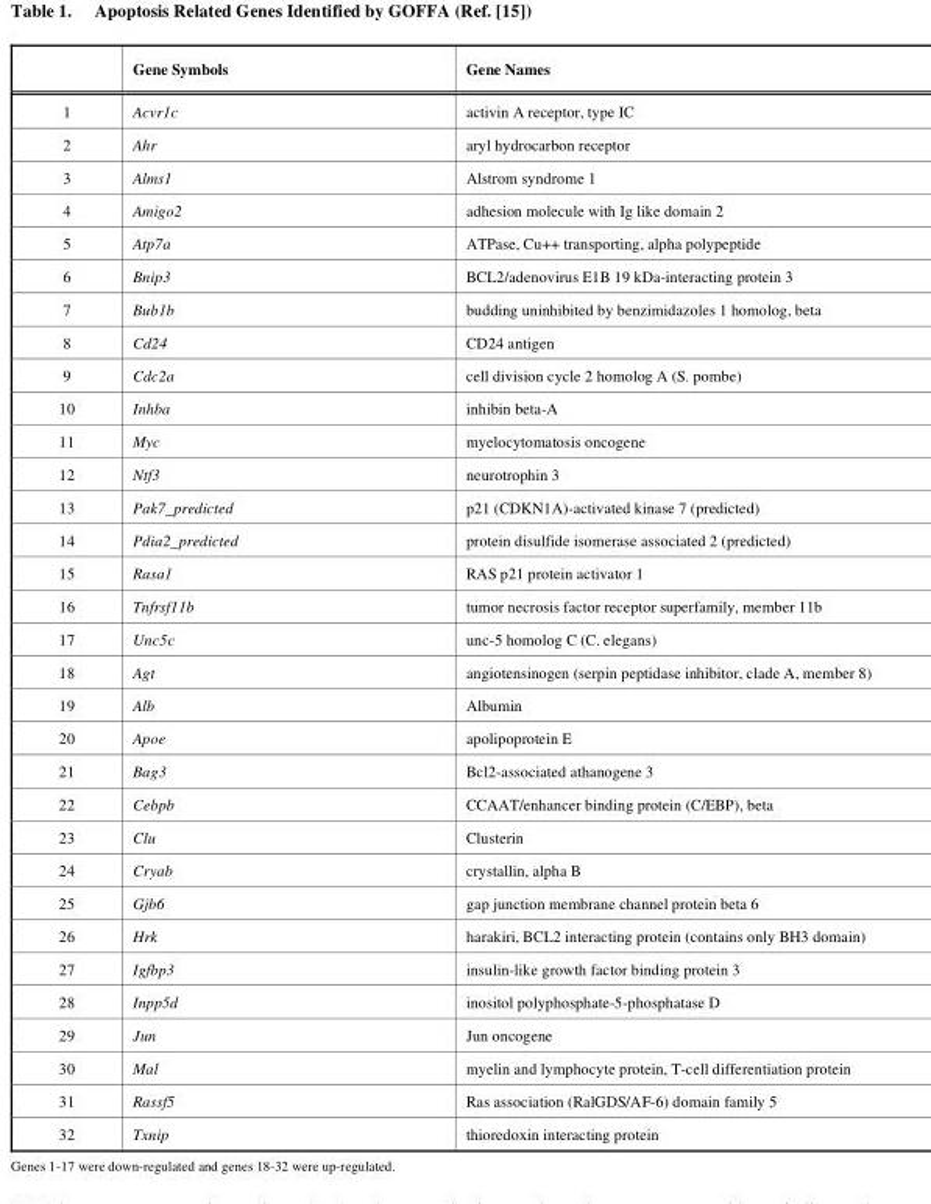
<table><thead><tr><td></td><td>Gene Symbols</td><td>Gene Names</td></tr></thead><tbody><tr><td>1</td><td>Acvr1c</td><td>activin A receptor, type IC</td></tr><tr><td>2</td><td>Ahr</td><td>aryl hydrocarbon receptor</td></tr><tr><td>3</td><td>Alms1</td><td>Alstrom syndrome 1</td></tr><tr><td>4</td><td>Amigo2</td><td>adhesion molecule with Ig like domain 2</td></tr><tr><td>5</td><td>Atp7a</td><td>ATPase, Cu++ transporting, alpha polypeptide</td></tr><tr><td>6</td><td>Bnip3</td><td>BCL2/adenovirus E1B 19 kDa-interacting protein 3</td></tr><tr><td>7</td><td>Bub1b</td><td>budding uninhibited by benzimidazoles 1 homolog, beta</td></tr><tr><td>8</td><td>Cd24</td><td>CD24 antigen</td></tr><tr><td>9</td><td>Cdc2a</td><td>cell division cycle 2 homolog A (S. pombe)</td></tr><tr><td>10</td><td>Inhba</td><td>inhibin beta-A</td></tr><tr><td>11</td><td>Myc</td><td>myelocytomatosis oncogene</td></tr><tr><td>12</td><td>Ntf3</td><td>neurotrophin 3</td></tr><tr><td>13</td><td>Pak7_predicted</td><td>p21 (CDKN1A)-activated kinase 7 (predicted)</td></tr><tr><td>14</td><td>Pdia2_predicted</td><td>protein disulfide isomerase associated 2 (predicted)</td></tr><tr><td>15</td><td>Rasa1</td><td>RAS p21 protein activator 1</td></tr><tr><td>16</td><td>Tnfrsf11b</td><td>tumor necrosis factor receptor superfamily, member 11b</td></tr><tr><td>17</td><td>Unc5c</td><td>unc-5 homolog C (C. elegans)</td></tr><tr><td>18</td><td>Agt</td><td>angiotensinogen (serpin peptidase inhibitor, clade A, member 8)</td></tr><tr><td>19</td><td>Alb</td><td>Albumin</td></tr><tr><td>20</td><td>Apoe</td><td>apolipoprotein E</td></tr><tr><td>21</td><td>Bag3</td><td>Bcl2-associated athanogene 3</td></tr><tr><td>22</td><td>Cebpb</td><td>CCAAT/enhancer binding protein (C/EBP), beta</td></tr><tr><td>23</td><td>Clu</td><td>Clusterin</td></tr><tr><td>24</td><td>Cryab</td><td>crystallin, alpha B</td></tr><tr><td>25</td><td>Gjb6</td><td>gap junction membrane channel protein beta 6</td></tr><tr><td>26</td><td>Hrk</td><td>harakiri, BCL2 interacting protein (contains only BH3 domain)</td></tr><tr><td>27</td><td>Igfbp3</td><td>insulin-like growth factor binding protein 3</td></tr><tr><td>28</td><td>Inpp5d</td><td>inositol polyphosphate-5-phosphatase D</td></tr><tr><td>29</td><td>Jun</td><td>Jun oncogene</td></tr><tr><td>30</td><td>Mal</td><td>myelin and lymphocyte protein, T-cell differentiation protein</td></tr><tr><td>31</td><td>Rassf5</td><td>Ras association (RalGDS/AF-6) domain family 5</td></tr><tr><td>32</td><td>Txnip</td><td>thioredoxin interacting protein</td></tr></tbody></table>